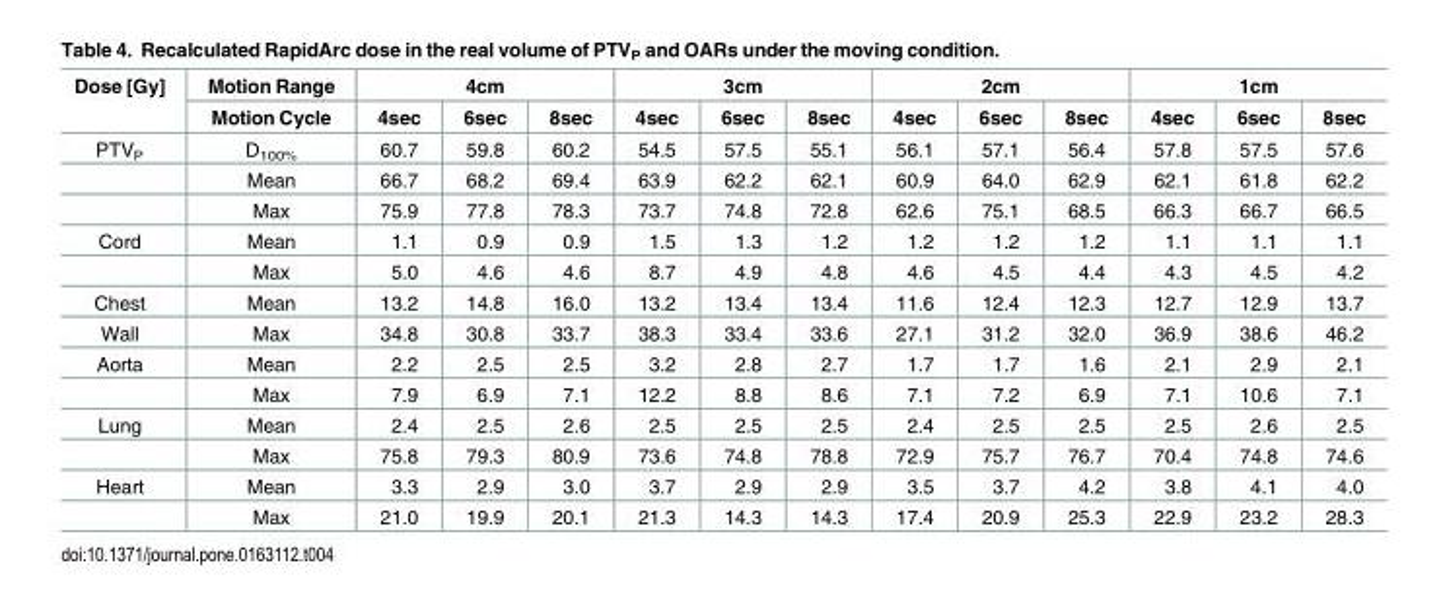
<table><thead><tr><td rowspan="2">Dose [Gy]</td><td rowspan="2">Motion Range Motion Cycle</td><td colspan="3">4cm</td><td colspan="3">3cm</td><td colspan="3">2cm</td><td colspan="3">1cm</td></tr><tr><td>4sec</td><td>6sec</td><td>8sec</td><td>4sec</td><td>6sec</td><td>8sec</td><td>4sec</td><td>6sec</td><td>8sec</td><td>4sec</td><td>6sec</td><td>8sec</td></tr></thead><tbody><tr><td rowspan="3">PTV<sub>P</sub></td><td>D<sub>100%</sub></td><td>60.7</td><td>59.8</td><td>60.2</td><td>54.5</td><td>57.5</td><td>55.1</td><td>56.1</td><td>57.1</td><td>56.4</td><td>57.8</td><td>57.5</td><td>57.6</td></tr><tr><td>Mean</td><td>66.7</td><td>68.2</td><td>69.4</td><td>63.9</td><td>62.2</td><td>62.1</td><td>60.9</td><td>64.0</td><td>62.9</td><td>62.1</td><td>61.8</td><td>62.2</td></tr><tr><td>Max</td><td>75.9</td><td>77.8</td><td>78.3</td><td>73.7</td><td>74.8</td><td>72.8</td><td>62.6</td><td>75.1</td><td>68.5</td><td>66.3</td><td>66.7</td><td>66.5</td></tr><tr><td rowspan="2">Cord</td><td>Mean</td><td>1.1</td><td>0.9</td><td>0.9</td><td>1.5</td><td>1.3</td><td>1.2</td><td>1.2</td><td>1.2</td><td>1.2</td><td>1.1</td><td>1.1</td><td>1.1</td></tr><tr><td>Max</td><td>5.0</td><td>4.6</td><td>4.6</td><td>8.7</td><td>4.9</td><td>4.8</td><td>4.6</td><td>4.5</td><td>4.4</td><td>4.3</td><td>4.5</td><td>4.2</td></tr><tr><td>Chest</td><td>Mean</td><td>13.2</td><td>14.8</td><td>16.0</td><td>13.2</td><td>13.4</td><td>13.4</td><td>11.6</td><td>12.4</td><td>12.3</td><td>12.7</td><td>12.9</td><td>13.7</td></tr><tr><td>Wall</td><td>Max</td><td>34.8</td><td>30.8</td><td>33.7</td><td>38.3</td><td>33.4</td><td>33.6</td><td>27.1</td><td>31.2</td><td>32.0</td><td>36.9</td><td>38.6</td><td>46.2</td></tr><tr><td rowspan="2">Aorta</td><td>Mean</td><td>2.2</td><td>2.5</td><td>2.5</td><td>3.2</td><td>2.8</td><td>2.7</td><td>1.7</td><td>1.7</td><td>1.6</td><td>2.1</td><td>2.9</td><td>2.1</td></tr><tr><td>Max</td><td>7.9</td><td>6.9</td><td>7.1</td><td>12.2</td><td>8.8</td><td>8.6</td><td>7.1</td><td>7.2</td><td>6.9</td><td>7.1</td><td>10.6</td><td>7.1</td></tr><tr><td rowspan="2">Lung</td><td>Mean</td><td>2.4</td><td>2.5</td><td>2.6</td><td>2.5</td><td>2.5</td><td>2.5</td><td>2.4</td><td>2.5</td><td>2.5</td><td>2.5</td><td>2.6</td><td>2.5</td></tr><tr><td>Max</td><td>75.8</td><td>79.3</td><td>80.9</td><td>73.6</td><td>74.8</td><td>78.8</td><td>72.9</td><td>75.7</td><td>76.7</td><td>70.4</td><td>74.8</td><td>74.6</td></tr><tr><td rowspan="2">Heart</td><td>Mean</td><td>3.3</td><td>2.9</td><td>3.0</td><td>3.7</td><td>2.9</td><td>2.9</td><td>3.5</td><td>3.7</td><td>4.2</td><td>3.8</td><td>4.1</td><td>4.0</td></tr><tr><td>Max</td><td>21.0</td><td>19.9</td><td>20.1</td><td>21.3</td><td>14.3</td><td>14.3</td><td>17.4</td><td>20.9</td><td>25.3</td><td>22.9</td><td>23.2</td><td>28.3</td></tr></tbody></table>